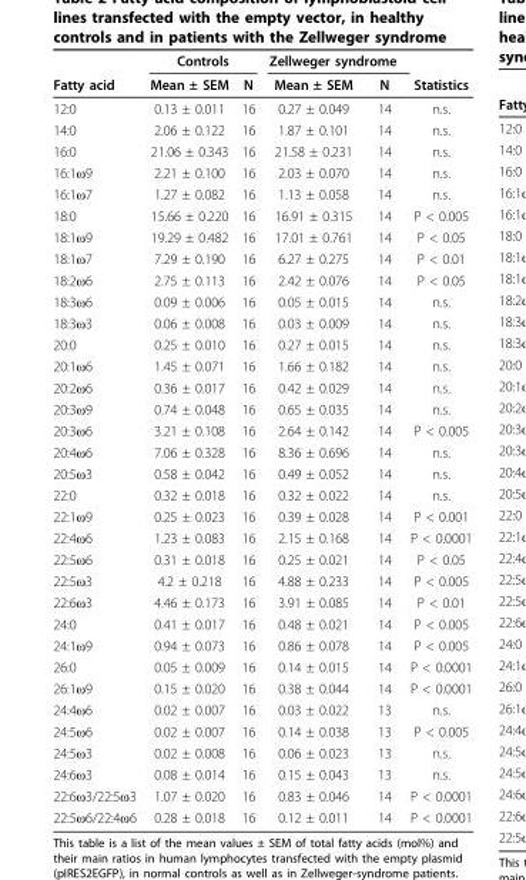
<table><thead><tr><td rowspan="2">Fatty acid</td><td colspan="2">Controls</td><td colspan="2">Zellweger syndrome</td><td rowspan="2">Statistics</td></tr><tr><td>Mean ± SEM</td><td>N</td><td>Mean ± SEM</td><td>N</td></tr></thead><tbody><tr><td>12:0</td><td>0.13 ± 0.011</td><td>16</td><td>0.27 ± 0.049</td><td>14</td><td>n.s.</td></tr><tr><td>14:0</td><td>2.06 ± 0.122</td><td>16</td><td>1.87 ± 0.101</td><td>14</td><td>n.s.</td></tr><tr><td>16:0</td><td>21.06 ± 0.343</td><td>16</td><td>21.58 ± 0.231</td><td>14</td><td>n.s.</td></tr><tr><td>16:1ω9</td><td>2.21 ± 0.100</td><td>16</td><td>2.03 ± 0.070</td><td>14</td><td>n.s.</td></tr><tr><td>16:1ω7</td><td>1.27 ± 0.082</td><td>16</td><td>1.13 ± 0.058</td><td>14</td><td>n.s.</td></tr><tr><td>18:0</td><td>15.66 ± 0.220</td><td>16</td><td>16.91 ± 0.315</td><td>14</td><td>P &lt; 0.005</td></tr><tr><td>18:1ω9</td><td>19.29 ± 0.482</td><td>16</td><td>17.01 ± 0.761</td><td>14</td><td>P &lt; 0.05</td></tr><tr><td>18:1ω7</td><td>7.29 ± 0.190</td><td>16</td><td>6.27 ± 0.275</td><td>14</td><td>P &lt; 0.01</td></tr><tr><td>18:2ω6</td><td>2.75 ± 0.113</td><td>16</td><td>2.42 ± 0.076</td><td>14</td><td>P &lt; 0.05</td></tr><tr><td>18:3ω6</td><td>0.09 ± 0.006</td><td>16</td><td>0.05 ± 0.015</td><td>14</td><td>n.s.</td></tr><tr><td>18:3ω3</td><td>0.06 ± 0.008</td><td>16</td><td>0.03 ± 0.009</td><td>14</td><td>n.s.</td></tr><tr><td>20:0</td><td>0.25 ± 0.010</td><td>16</td><td>0.27 ± 0.015</td><td>14</td><td>n.s.</td></tr><tr><td>20:1ω6</td><td>1.45 ± 0.071</td><td>16</td><td>1.66 ± 0.182</td><td>14</td><td>n.s.</td></tr><tr><td>20:2ω6</td><td>0.36 ± 0.017</td><td>16</td><td>0.42 ± 0.029</td><td>14</td><td>n.s.</td></tr><tr><td>20:3ω9</td><td>0.74 ± 0.048</td><td>16</td><td>0.65 ± 0.035</td><td>14</td><td>n.s.</td></tr><tr><td>20:3ω6</td><td>3.21 ± 0.108</td><td>16</td><td>2.64 ± 0.142</td><td>14</td><td>P &lt; 0.005</td></tr><tr><td>20:4ω6</td><td>7.06 ± 0.328</td><td>16</td><td>8.36 ± 0.696</td><td>14</td><td>n.s.</td></tr><tr><td>20:5ω3</td><td>0.58 ± 0.042</td><td>16</td><td>0.49 ± 0.052</td><td>14</td><td>n.s.</td></tr><tr><td>22:0</td><td>0.32 ± 0.018</td><td>16</td><td>0.32 ± 0.022</td><td>14</td><td>n.s.</td></tr><tr><td>22:1ω9</td><td>0.25 ± 0.023</td><td>16</td><td>0.39 ± 0.028</td><td>14</td><td>P &lt; 0.001</td></tr><tr><td>22:4ω6</td><td>1.23 ± 0.083</td><td>16</td><td>2.15 ± 0.168</td><td>14</td><td>P &lt; 0.0001</td></tr><tr><td>22:5ω6</td><td>0.31 ± 0.018</td><td>16</td><td>0.25 ± 0.021</td><td>14</td><td>P &lt; 0.05</td></tr><tr><td>22:5ω3</td><td>4.2 ± 0.218</td><td>16</td><td>4.88 ± 0.233</td><td>14</td><td>P &lt; 0.005</td></tr><tr><td>22:6ω3</td><td>4.46 ± 0.173</td><td>16</td><td>3.91 ± 0.085</td><td>14</td><td>P &lt; 0.01</td></tr><tr><td>24:0</td><td>0.41 ± 0.017</td><td>16</td><td>0.48 ± 0.021</td><td>14</td><td>P &lt; 0.005</td></tr><tr><td>24:1ω9</td><td>0.94 ± 0.073</td><td>16</td><td>0.86 ± 0.078</td><td>14</td><td>P &lt; 0.005</td></tr><tr><td>26:0</td><td>0.05 ± 0.009</td><td>16</td><td>0.14 ± 0.015</td><td>14</td><td>P &lt; 0.0001</td></tr><tr><td>26:1ω9</td><td>0.15 ± 0.020</td><td>16</td><td>0.38 ± 0.044</td><td>14</td><td>P &lt; 0.0001</td></tr><tr><td>24:4ω6</td><td>0.02 ± 0.007</td><td>16</td><td>0.03 ± 0.022</td><td>13</td><td>n.s.</td></tr><tr><td>24:5ω6</td><td>0.02 ± 0.007</td><td>16</td><td>0.14 ± 0.038</td><td>13</td><td>P &lt; 0.005</td></tr><tr><td>24:5ω3</td><td>0.02 ± 0.008</td><td>16</td><td>0.06 ± 0.023</td><td>13</td><td>n.s.</td></tr><tr><td>24:6ω3</td><td>0.08 ± 0.014</td><td>16</td><td>0.15 ± 0.043</td><td>13</td><td>n.s.</td></tr><tr><td>22:6ω3/22:5ω3</td><td>1.07 ± 0.020</td><td>16</td><td>0.83 ± 0.046</td><td>14</td><td>P &lt; 0.0001</td></tr><tr><td>22:5ω6/22:4ω6</td><td>0.28 ± 0.018</td><td>16</td><td>0.12 ± 0.011</td><td>14</td><td>P &lt; 0.0001</td></tr></tbody></table>